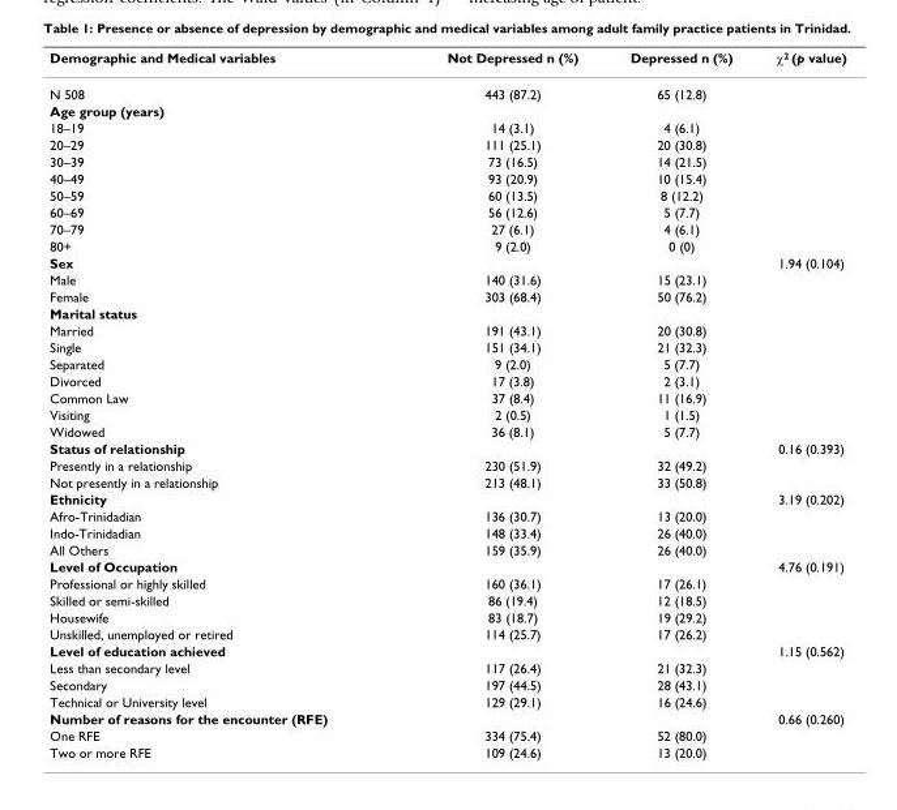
<table><thead><tr><td>Demographic and Medical variables</td><td>Not Depressed n (%)</td><td>Depressed n (%)</td><td>χ<sup>2</sup> (p value)</td></tr></thead><tbody><tr><td>N 508</td><td>443 (87.2)</td><td>65 (12.8)</td><td></td></tr><tr><td colspan="4">Age group (years)</td></tr><tr><td>18–19</td><td>14 (3.1)</td><td>4 (6.1)</td><td></td></tr><tr><td>20–29</td><td>111 (25.1)</td><td>20 (30.8)</td><td></td></tr><tr><td>30–39</td><td>73 (16.5)</td><td>14 (21.5)</td><td></td></tr><tr><td>40–49</td><td>93 (20.9)</td><td>10 (15.4)</td><td></td></tr><tr><td>50–59</td><td>60 (13.5)</td><td>8 (12.2)</td><td></td></tr><tr><td>60–69</td><td>56 (12.6)</td><td>5 (7.7)</td><td></td></tr><tr><td>70–79</td><td>27 (6.1)</td><td>4 (6.1)</td><td></td></tr><tr><td>80+</td><td>9 (2.0)</td><td>0 (0)</td><td></td></tr><tr><td>Sex</td><td></td><td></td><td>1.94 (0.104)</td></tr><tr><td>Male</td><td>140 (31.6)</td><td>15 (23.1)</td><td></td></tr><tr><td>Female</td><td>303 (68.4)</td><td>50 (76.2)</td><td></td></tr><tr><td colspan="4">Marital status</td></tr><tr><td>Married</td><td>191 (43.1)</td><td>20 (30.8)</td><td></td></tr><tr><td>Single</td><td>151 (34.1)</td><td>21 (32.3)</td><td></td></tr><tr><td>Separated</td><td>9 (2.0)</td><td>5 (7.7)</td><td></td></tr><tr><td>Divorced</td><td>17 (3.8)</td><td>2 (3.1)</td><td></td></tr><tr><td>Common Law</td><td>37 (8.4)</td><td>11 (16.9)</td><td></td></tr><tr><td>Visiting</td><td>2 (0.5)</td><td>1 (1.5)</td><td></td></tr><tr><td>Widowed</td><td>36 (8.1)</td><td>5 (7.7)</td><td></td></tr><tr><td>Status of relationship</td><td></td><td></td><td>0.16 (0.393)</td></tr><tr><td>Presently in a relationship</td><td>230 (51.9)</td><td>32 (49.2)</td><td></td></tr><tr><td>Not presently in a relationship</td><td>213 (48.1)</td><td>33 (50.8)</td><td></td></tr><tr><td>Ethnicity</td><td></td><td></td><td>3.19 (0.202)</td></tr><tr><td>Afro-Trinidadian</td><td>136 (30.7)</td><td>13 (20.0)</td><td></td></tr><tr><td>Indo-Trinidadian</td><td>148 (33.4)</td><td>26 (40.0)</td><td></td></tr><tr><td>All Others</td><td>159 (35.9)</td><td>26 (40.0)</td><td></td></tr><tr><td>Level of Occupation</td><td></td><td></td><td>4.76 (0.191)</td></tr><tr><td>Professional or highly skilled</td><td>160 (36.1)</td><td>17 (26.1)</td><td></td></tr><tr><td>Skilled or semi-skilled</td><td>86 (19.4)</td><td>12 (18.5)</td><td></td></tr><tr><td>Housewife</td><td>83 (18.7)</td><td>19 (29.2)</td><td></td></tr><tr><td>Unskilled, unemployed or retired</td><td>114 (25.7)</td><td>17 (26.2)</td><td></td></tr><tr><td>Level of education achieved</td><td></td><td></td><td>1.15 (0.562)</td></tr><tr><td>Less than secondary level</td><td>117 (26.4)</td><td>21 (32.3)</td><td></td></tr><tr><td>Secondary</td><td>197 (44.5)</td><td>28 (43.1)</td><td></td></tr><tr><td>Technical or University level</td><td>129 (29.1)</td><td>16 (24.6)</td><td></td></tr><tr><td>Number of reasons for the encounter (RFE)</td><td></td><td></td><td>0.66 (0.260)</td></tr><tr><td>One RFE</td><td>334 (75.4)</td><td>52 (80.0)</td><td></td></tr><tr><td>Two or more RFE</td><td>109 (24.6)</td><td>13 (20.0)</td><td></td></tr></tbody></table>